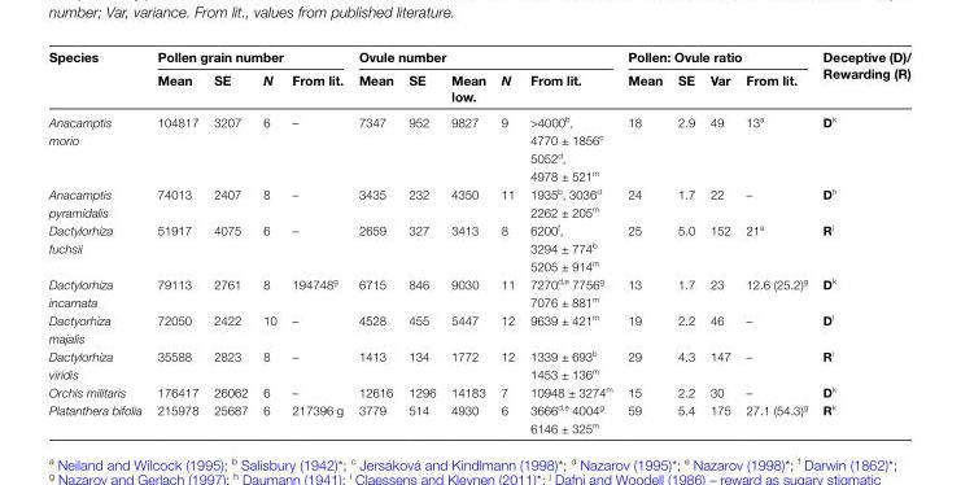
<table><thead><tr><td rowspan="2">Species</td><td colspan="4">Pollen grain number</td><td colspan="5">Ovule number</td><td colspan="4">Pollen: Ovule ratio</td><td rowspan="2">Deceptive (D)/ Rewarding (R)</td></tr><tr><td>Mean</td><td>SE</td><td>N</td><td>From lit.</td><td>Mean</td><td>SE</td><td>Mean low.</td><td>N</td><td>From lit.</td><td>Mean</td><td>SE</td><td>Var</td><td>From lit.</td></tr></thead><tbody><tr><td>Anacamptis morio</td><td>104817</td><td>3207</td><td>6</td><td>–</td><td>7347</td><td>952</td><td>9827</td><td>9</td><td>&gt;4000<sup>b</sup>, 4770 ± 1856<sup>c</sup> 5052<sup>d</sup>, 4978 ± 521<sup>m</sup></td><td>18</td><td>2.9</td><td>49</td><td>13<sup>a</sup></td><td>D<sup>k</sup></td></tr><tr><td>Anacamptis pyramidalis</td><td>74013</td><td>2407</td><td>8</td><td>–</td><td>3435</td><td>232</td><td>4350</td><td>11</td><td>1935<sup>b</sup>, 3036<sup>d</sup> 2262 ± 205<sup>m</sup></td><td>24</td><td>1.7</td><td>22</td><td>–</td><td>D<sup>h</sup></td></tr><tr><td>Dactylorhiza fuchsii</td><td>51917</td><td>4075</td><td>6</td><td>–</td><td>2659</td><td>327</td><td>3413</td><td>8</td><td>6200<sup>f</sup>, 3294 ± 774<sup>b</sup> 5205 ± 914<sup>m</sup></td><td>25</td><td>5.0</td><td>152</td><td>21<sup>a</sup></td><td>R<sup>j</sup></td></tr><tr><td>Dactylorhiza incarnata</td><td>79113</td><td>2761</td><td>8</td><td>194748<sup>g</sup></td><td>6715</td><td>846</td><td>9030</td><td>11</td><td>7270<sup>d</sup>,<sup>e</sup> 7756<sup>g</sup> 7076 ± 881<sup>m</sup></td><td>13</td><td>1.7</td><td>23</td><td>12.6 (25.2)<sup>g</sup></td><td>D<sup>k</sup></td></tr><tr><td>Dactyorhiza majalis</td><td>72050</td><td>2422</td><td>10</td><td>–</td><td>4528</td><td>455</td><td>5447</td><td>12</td><td>9639 ± 421<sup>m</sup></td><td>19</td><td>2.2</td><td>46</td><td>–</td><td>D<sup>l</sup></td></tr><tr><td>Dactylorhiza viridis</td><td>35588</td><td>2823</td><td>8</td><td>–</td><td>1413</td><td>134</td><td>1772</td><td>12</td><td>1339 ± 693<sup>b</sup> 1453 ± 136<sup>m</sup></td><td>29</td><td>4.3</td><td>147</td><td>–</td><td>R<sup>i</sup></td></tr><tr><td>Orchis militaris</td><td>176417</td><td>26062</td><td>6</td><td>–</td><td>12616</td><td>1296</td><td>14183</td><td>7</td><td>10948 ± 3274<sup>m</sup></td><td>15</td><td>2.2</td><td>30</td><td>–</td><td>D<sup>k</sup></td></tr><tr><td>Platanthera bifolia</td><td>215978</td><td>25687</td><td>6</td><td>217396 g</td><td>3779</td><td>514</td><td>4930</td><td>6</td><td>3666<sup>d</sup>,<sup>e</sup> 4004<sup>g</sup> 6146 ± 325<sup>m</sup></td><td>59</td><td>5.4</td><td>175</td><td>27.1 (54.3)<sup>g</sup></td><td>R<sup>k</sup></td></tr></tbody></table>